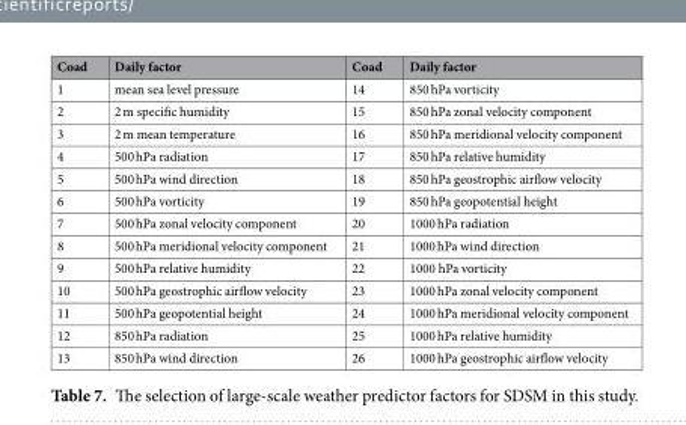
<table><thead><tr><td>Coad</td><td>Daily factor</td><td>Coad</td><td>Daily factor</td></tr></thead><tbody><tr><td>1</td><td>mean sea level pressure</td><td>14</td><td>850 hPa vorticity</td></tr><tr><td>2</td><td>2 m specific humidity</td><td>15</td><td>850 hPa zonal velocity component</td></tr><tr><td>3</td><td>2 m mean temperature</td><td>16</td><td>850 hPa meridional velocity component</td></tr><tr><td>4</td><td>500 hPa radiation</td><td>17</td><td>850 hPa relative humidity</td></tr><tr><td>5</td><td>500 hPa wind direction</td><td>18</td><td>850 hPa geostrophic airflow velocity</td></tr><tr><td>6</td><td>500 hPa vorticity</td><td>19</td><td>850 hPa geopotential height</td></tr><tr><td>7</td><td>500 hPa zonal velocity component</td><td>20</td><td>1000 hPa radiation</td></tr><tr><td>8</td><td>500 hPa meridional velocity component</td><td>21</td><td>1000 hPa wind direction</td></tr><tr><td>9</td><td>500 hPa relative humidity</td><td>22</td><td>1000 hPa vorticity</td></tr><tr><td>10</td><td>500 hPa geostrophic airflow velocity</td><td>23</td><td>1000 hPa zonal velocity component</td></tr><tr><td>11</td><td>500 hPa geopotential height</td><td>24</td><td>1000 hPa meridional velocity component</td></tr><tr><td>12</td><td>850 hPa radiation</td><td>25</td><td>1000 hPa relative humidity</td></tr><tr><td>13</td><td>850 hPa wind direction</td><td>26</td><td>1000 hPa geostrophic airflow velocity</td></tr></tbody></table>